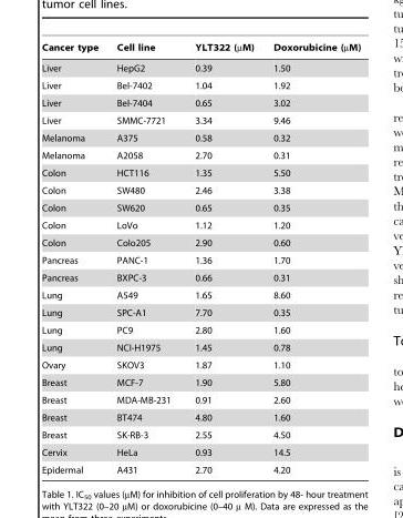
<table><thead><tr><td>Cancer type</td><td>Cell line</td><td>YLT322 (µM)</td><td>Doxorubicine (µM)</td></tr></thead><tbody><tr><td>Liver</td><td>HepG2</td><td>0.39</td><td>1.50</td></tr><tr><td>Liver</td><td>Bel-7402</td><td>1.04</td><td>1.92</td></tr><tr><td>Liver</td><td>Bel-7404</td><td>0.65</td><td>3.02</td></tr><tr><td>Liver</td><td>SMMC-7721</td><td>3.34</td><td>9.46</td></tr><tr><td>Melanoma</td><td>A375</td><td>0.58</td><td>0.32</td></tr><tr><td>Melanoma</td><td>A2058</td><td>2.70</td><td>0.31</td></tr><tr><td>Colon</td><td>HCT116</td><td>1.35</td><td>5.50</td></tr><tr><td>Colon</td><td>SW480</td><td>2.46</td><td>3.38</td></tr><tr><td>Colon</td><td>SW620</td><td>0.65</td><td>0.35</td></tr><tr><td>Colon</td><td>LoVo</td><td>1.12</td><td>1.20</td></tr><tr><td>Colon</td><td>Colo205</td><td>2.90</td><td>0.60</td></tr><tr><td>Pancreas</td><td>PANC-1</td><td>1.36</td><td>1.70</td></tr><tr><td>Pancreas</td><td>BXPC-3</td><td>0.66</td><td>0.31</td></tr><tr><td>Lung</td><td>A549</td><td>1.65</td><td>8.60</td></tr><tr><td>Lung</td><td>SPC-A1</td><td>7.70</td><td>0.35</td></tr><tr><td>Lung</td><td>PC9</td><td>2.80</td><td>1.60</td></tr><tr><td>Lung</td><td>NCI-H1975</td><td>1.45</td><td>0.78</td></tr><tr><td>Ovary</td><td>SKOV3</td><td>1.87</td><td>1.10</td></tr><tr><td>Breast</td><td>MCF-7</td><td>1.90</td><td>5.80</td></tr><tr><td>Breast</td><td>MDA-MB-231</td><td>0.91</td><td>2.60</td></tr><tr><td>Breast</td><td>BT474</td><td>4.80</td><td>1.60</td></tr><tr><td>Breast</td><td>SK-RB-3</td><td>2.55</td><td>4.50</td></tr><tr><td>Cervix</td><td>HeLa</td><td>0.93</td><td>14.5</td></tr><tr><td>Epidermal</td><td>A431</td><td>2.70</td><td>4.20</td></tr></tbody></table>